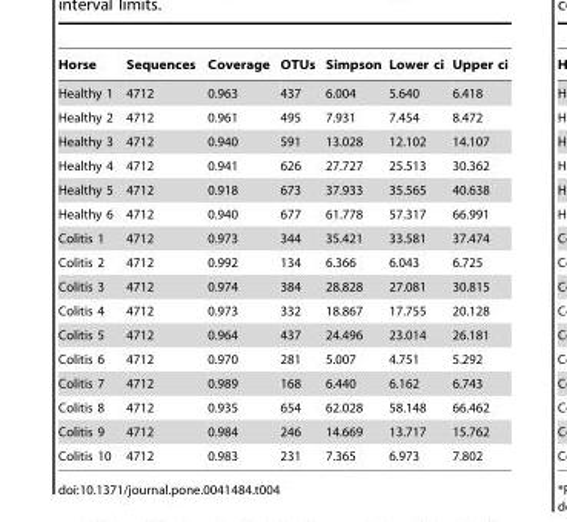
<table><thead><tr><td>Horse</td><td>Sequences</td><td>Coverage</td><td>OTUs</td><td>Simpson</td><td>Lower ci</td><td>Upper ci</td></tr></thead><tbody><tr><td>Healthy 1</td><td>4712</td><td>0.963</td><td>437</td><td>6.004</td><td>5.640</td><td>6.418</td></tr><tr><td>Healthy 2</td><td>4712</td><td>0.961</td><td>495</td><td>7.931</td><td>7.454</td><td>8.472</td></tr><tr><td>Healthy 3</td><td>4712</td><td>0.940</td><td>591</td><td>13.028</td><td>12.102</td><td>14.107</td></tr><tr><td>Healthy 4</td><td>4712</td><td>0.941</td><td>626</td><td>27.727</td><td>25.513</td><td>30.362</td></tr><tr><td>Healthy 5</td><td>4712</td><td>0.918</td><td>673</td><td>37.933</td><td>35.565</td><td>40.638</td></tr><tr><td>Healthy 6</td><td>4712</td><td>0.940</td><td>677</td><td>61.778</td><td>57.317</td><td>66.991</td></tr><tr><td>Colitis 1</td><td>4712</td><td>0.973</td><td>344</td><td>35.421</td><td>33.581</td><td>37.474</td></tr><tr><td>Colitis 2</td><td>4712</td><td>0.992</td><td>134</td><td>6.366</td><td>6.043</td><td>6.725</td></tr><tr><td>Colitis 3</td><td>4712</td><td>0.974</td><td>384</td><td>28.828</td><td>27.081</td><td>30.815</td></tr><tr><td>Colitis 4</td><td>4712</td><td>0.973</td><td>332</td><td>18.867</td><td>17.755</td><td>20.128</td></tr><tr><td>Colitis 5</td><td>4712</td><td>0.964</td><td>437</td><td>24.496</td><td>23.014</td><td>26.181</td></tr><tr><td>Colitis 6</td><td>4712</td><td>0.970</td><td>281</td><td>5.007</td><td>4.751</td><td>5.292</td></tr><tr><td>Colitis 7</td><td>4712</td><td>0.989</td><td>168</td><td>6.440</td><td>6.162</td><td>6.743</td></tr><tr><td>Colitis 8</td><td>4712</td><td>0.935</td><td>654</td><td>62.028</td><td>58.148</td><td>66.462</td></tr><tr><td>Colitis 9</td><td>4712</td><td>0.984</td><td>246</td><td>14.669</td><td>13.717</td><td>15.762</td></tr><tr><td>Colitis 10</td><td>4712</td><td>0.983</td><td>231</td><td>7.365</td><td>6.973</td><td>7.802</td></tr></tbody></table>